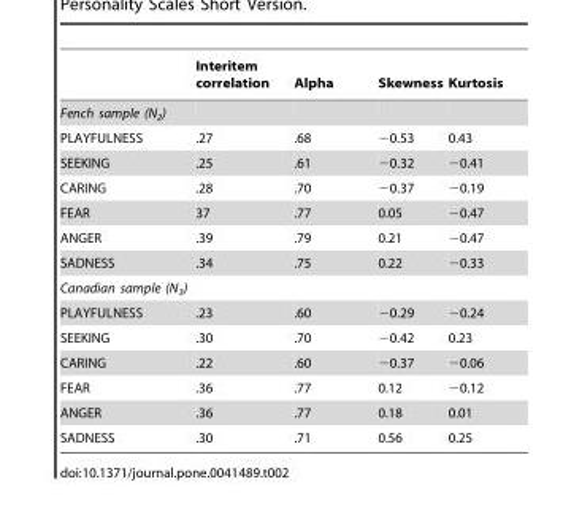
<table><thead><tr><td></td><td>Interitem correlation</td><td>Alpha</td><td>Skewness</td><td>Kurtosis</td></tr></thead><tbody><tr><td colspan="5">Fench sample (N<sub>2</sub>)</td></tr><tr><td>PLAYFULNESS</td><td>.27</td><td>.68</td><td>−0.53</td><td>0.43</td></tr><tr><td>SEEKING</td><td>.25</td><td>.61</td><td>−0.32</td><td>−0.41</td></tr><tr><td>CARING</td><td>.28</td><td>.70</td><td>−0.37</td><td>−0.19</td></tr><tr><td>FEAR</td><td>37</td><td>.77</td><td>0.05</td><td>−0.47</td></tr><tr><td>ANGER</td><td>.39</td><td>.79</td><td>0.21</td><td>−0.47</td></tr><tr><td>SADNESS</td><td>.34</td><td>.75</td><td>0.22</td><td>−0.33</td></tr><tr><td colspan="5">Canadian sample (N<sub>3</sub>)</td></tr><tr><td>PLAYFULNESS</td><td>.23</td><td>.60</td><td>−0.29</td><td>−0.24</td></tr><tr><td>SEEKING</td><td>.30</td><td>.70</td><td>−0.42</td><td>0.23</td></tr><tr><td>CARING</td><td>.22</td><td>.60</td><td>−0.37</td><td>−0.06</td></tr><tr><td>FEAR</td><td>.36</td><td>.77</td><td>0.12</td><td>−0.12</td></tr><tr><td>ANGER</td><td>.36</td><td>.77</td><td>0.18</td><td>0.01</td></tr><tr><td>SADNESS</td><td>.30</td><td>.71</td><td>0.56</td><td>0.25</td></tr></tbody></table>